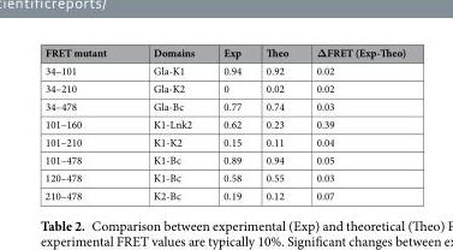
<table><thead><tr><td>FRET mutant</td><td>Domains</td><td>Exp</td><td>Theo</td><td>ΔFRET (Exp-Theo)</td></tr></thead><tbody><tr><td>34–101</td><td>Gla-K1</td><td>0.94</td><td>0.92</td><td>0.02</td></tr><tr><td>34–210</td><td>Gla-K2</td><td>0</td><td>0.02</td><td>0.02</td></tr><tr><td>34–478</td><td>Gla-Bc</td><td>0.77</td><td>0.74</td><td>0.03</td></tr><tr><td>101–160</td><td>K1-Lnk2</td><td>0.62</td><td>0.23</td><td>0.39</td></tr><tr><td>101–210</td><td>K1-K2</td><td>0.15</td><td>0.11</td><td>0.04</td></tr><tr><td>101–478</td><td>K1-Bc</td><td>0.89</td><td>0.94</td><td>0.05</td></tr><tr><td>120–478</td><td>K1-Bc</td><td>0.58</td><td>0.55</td><td>0.03</td></tr><tr><td>210–478</td><td>K2-Bc</td><td>0.19</td><td>0.12</td><td>0.07</td></tr></tbody></table>